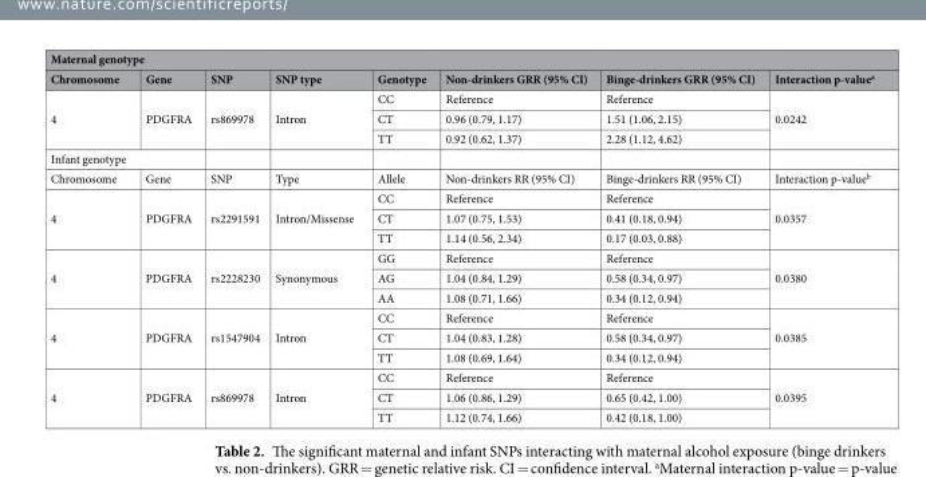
<table><thead><tr><td colspan="8">Maternal genotype</td></tr><tr><td>Chromosome</td><td>Gene</td><td>SNP</td><td>SNP type</td><td>Genotype</td><td>Non-drinkers GRR (95% CI)</td><td>Binge-drinkers GRR (95% CI)</td><td>Interaction p-value<sup>a</sup></td></tr></thead><tbody><tr><td rowspan="3">4</td><td rowspan="3">PDGFRA</td><td rowspan="3">rs869978</td><td rowspan="3">Intron</td><td>CC</td><td>Reference</td><td>Reference</td><td rowspan="3">0.0242</td></tr><tr><td>CT</td><td>0.96 (0.79, 1.17)</td><td>1.51 (1.06, 2.15)</td></tr><tr><td>TT</td><td>0.92 (0.62, 1.37)</td><td>2.28 (1.12, 4.62)</td></tr><tr><td colspan="8">Infant genotype</td></tr><tr><td>Chromosome</td><td>Gene</td><td>SNP</td><td>Type</td><td>Allele</td><td>Non-drinkers RR (95% CI)</td><td>Binge-drinkers RR (95% CI)</td><td>Interaction p-value<sup>b</sup></td></tr><tr><td rowspan="3">4</td><td rowspan="3">PDGFRA</td><td rowspan="3">rs2291591</td><td rowspan="3">Intron/Missense</td><td>CC</td><td>Reference</td><td>Reference</td><td rowspan="3">0.0357</td></tr><tr><td>CT</td><td>1.07 (0.75, 1.53)</td><td>0.41 (0.18, 0.94)</td></tr><tr><td>TT</td><td>1.14 (0.56, 2.34)</td><td>0.17 (0.03, 0.88)</td></tr><tr><td rowspan="3">4</td><td rowspan="3">PDGFRA</td><td rowspan="3">rs2228230</td><td rowspan="3">Synonymous</td><td>GG</td><td>Reference</td><td>Reference</td><td rowspan="3">0.0380</td></tr><tr><td>AG</td><td>1.04 (0.84, 1.29)</td><td>0.58 (0.34, 0.97)</td></tr><tr><td>AA</td><td>1.08 (0.71, 1.66)</td><td>0.34 (0.12, 0.94)</td></tr><tr><td rowspan="3">4</td><td rowspan="3">PDGFRA</td><td rowspan="3">rs1547904</td><td rowspan="3">Intron</td><td>CC</td><td>Reference</td><td>Reference</td><td rowspan="3">0.0385</td></tr><tr><td>CT</td><td>1.04 (0.83, 1.28)</td><td>0.58 (0.34, 0.97)</td></tr><tr><td>TT</td><td>1.08 (0.69, 1.64)</td><td>0.34 (0.12, 0.94)</td></tr><tr><td rowspan="3">4</td><td rowspan="3">PDGFRA</td><td rowspan="3">rs869978</td><td rowspan="3">Intron</td><td>CC</td><td>Reference</td><td>Reference</td><td rowspan="3">0.0395</td></tr><tr><td>CT</td><td>1.06 (0.86, 1.29)</td><td>0.65 (0.42, 1.00)</td></tr><tr><td>TT</td><td>1.12 (0.74, 1.66)</td><td>0.42 (0.18, 1.00)</td></tr></tbody></table>